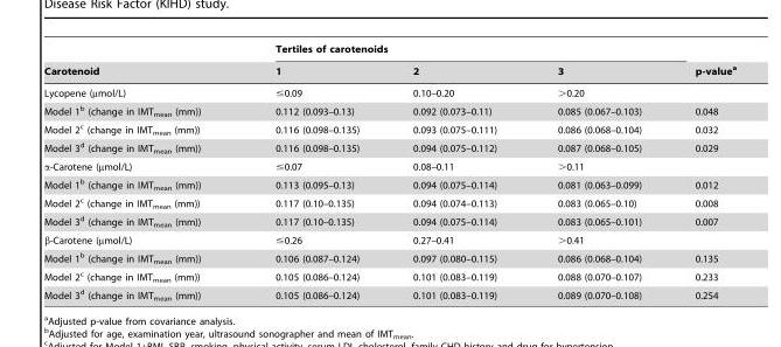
<table><thead><tr><td rowspan="2">Carotenoid</td><td colspan="3">Tertiles of carotenoids</td><td rowspan="2">p-value<sup>a</sup></td></tr><tr><td>1</td><td>2</td><td>3</td></tr></thead><tbody><tr><td>Lycopene (µmol/L)</td><td>≤0.09</td><td>0.10–0.20</td><td>&gt;0.20</td><td></td></tr><tr><td>Model 1<sup>b</sup> (change in IMT<sub>mean</sub> (mm))</td><td>0.112 (0.093–0.13)</td><td>0.092 (0.073–0.11)</td><td>0.085 (0.067–0.103)</td><td>0.048</td></tr><tr><td>Model 2<sup>c</sup> (change in IMT<sub>mean</sub> (mm))</td><td>0.116 (0.098–0.135)</td><td>0.093 (0.075–0.111)</td><td>0.086 (0.068–0.104)</td><td>0.032</td></tr><tr><td>Model 3<sup>d</sup> (change in IMT<sub>mean</sub> (mm))</td><td>0.116 (0.098–0.135)</td><td>0.094 (0.075–0.112)</td><td>0.087 (0.068–0.105)</td><td>0.029</td></tr><tr><td>α-Carotene (µmol/L)</td><td>≤0.07</td><td>0.08–0.11</td><td>&gt;0.11</td><td></td></tr><tr><td>Model 1<sup>b</sup> (change in IMT<sub>mean</sub> (mm))</td><td>0.113 (0.095–0.13)</td><td>0.094 (0.075–0.114)</td><td>0.081 (0.063–0.099)</td><td>0.012</td></tr><tr><td>Model 2<sup>c</sup> (change in IMT<sub>mean</sub> (mm))</td><td>0.117 (0.10–0.135)</td><td>0.094 (0.074–0.113)</td><td>0.083 (0.065–0.10)</td><td>0.008</td></tr><tr><td>Model 3<sup>d</sup> (change in IMT<sub>mean</sub> (mm))</td><td>0.117 (0.10–0.135)</td><td>0.094 (0.075–0.114)</td><td>0.083 (0.065–0.101)</td><td>0.007</td></tr><tr><td>β-Carotene (µmol/L)</td><td>≤0.26</td><td>0.27–0.41</td><td>&gt;0.41</td><td></td></tr><tr><td>Model 1<sup>b</sup> (change in IMT<sub>mean</sub> (mm))</td><td>0.106 (0.087–0.124)</td><td>0.097 (0.080–0.115)</td><td>0.086 (0.068–0.104)</td><td>0.135</td></tr><tr><td>Model 2<sup>c</sup> (change in IMT<sub>mean</sub> (mm))</td><td>0.105 (0.086–0.124)</td><td>0.101 (0.083–0.119)</td><td>0.088 (0.070–0.107)</td><td>0.233</td></tr><tr><td>Model 3<sup>d</sup> (change in IMT<sub>mean</sub> (mm))</td><td>0.105 (0.086–0.124)</td><td>0.101 (0.083–0.119)</td><td>0.089 (0.070–0.108)</td><td>0.254</td></tr></tbody></table>